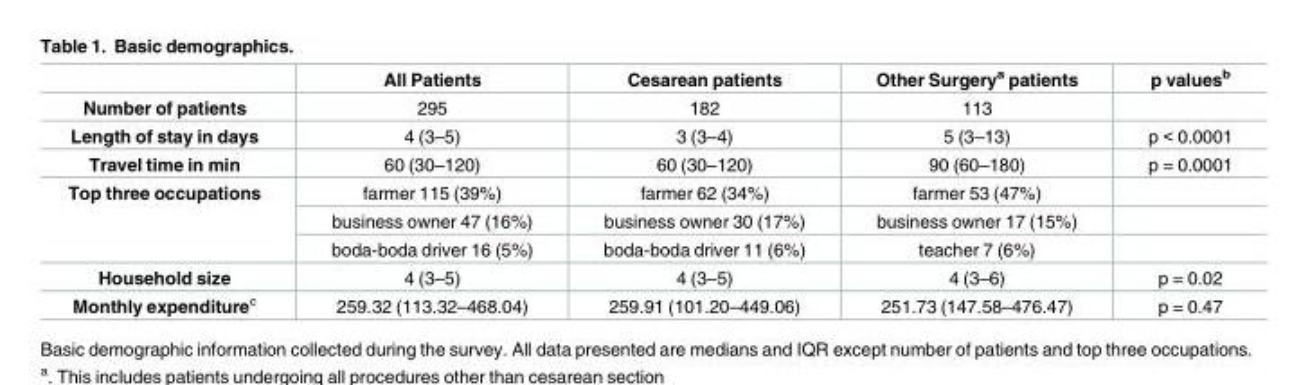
<table><thead><tr><td></td><td>All Patients</td><td>Cesarean patients</td><td>Other Surgery<sup>a</sup> patients</td><td>p values<sup>b</sup></td></tr></thead><tbody><tr><td>Number of patients</td><td>295</td><td>182</td><td>113</td><td></td></tr><tr><td>Length of stay in days</td><td>4 (3–5)</td><td>3 (3–4)</td><td>5 (3–13)</td><td>p &lt; 0.0001</td></tr><tr><td>Travel time in min</td><td>60 (30–120)</td><td>60 (30–120)</td><td>90 (60–180)</td><td>p = 0.0001</td></tr><tr><td rowspan="3">Top three occupations</td><td>farmer 115 (39%)</td><td>farmer 62 (34%)</td><td>farmer 53 (47%)</td><td></td></tr><tr><td>business owner 47 (16%)</td><td>business owner 30 (17%)</td><td>business owner 17 (15%)</td><td></td></tr><tr><td>boda-boda driver 16 (5%)</td><td>boda-boda driver 11 (6%)</td><td>teacher 7 (6%)</td><td></td></tr><tr><td>Household size</td><td>4 (3–5)</td><td>4 (3–5)</td><td>4 (3–6)</td><td>p = 0.02</td></tr><tr><td>Monthly expenditure<sup>c</sup></td><td>259.32 (113.32–468.04)</td><td>259.91 (101.20–449.06)</td><td>251.73 (147.58–476.47)</td><td>p = 0.47</td></tr></tbody></table>